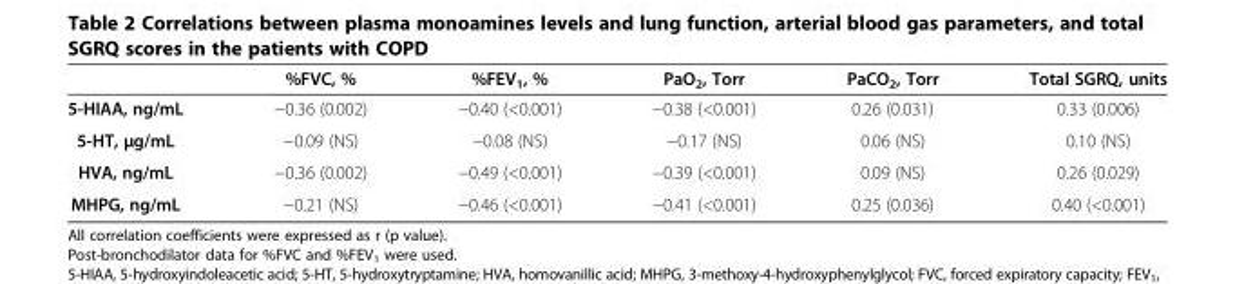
<table><thead><tr><td></td><td>%FVC, %</td><td>%FEV<sub>1</sub>, %</td><td>PaO<sub>2</sub>, Torr</td><td>PaCO<sub>2</sub>, Torr</td><td>Total SGRQ, units</td></tr></thead><tbody><tr><td>5-HIAA, ng/mL</td><td>−0.36 (0.002)</td><td>−0.40 (&lt;0.001)</td><td>−0.38 (&lt;0.001)</td><td>0.26 (0.031)</td><td>0.33 (0.006)</td></tr><tr><td>5-HT, μg/mL</td><td>−0.09 (NS)</td><td>−0.08 (NS)</td><td>−0.17 (NS)</td><td>0.06 (NS)</td><td>0.10 (NS)</td></tr><tr><td>HVA, ng/mL</td><td>−0.36 (0.002)</td><td>−0.49 (&lt;0.001)</td><td>−0.39 (&lt;0.001)</td><td>0.09 (NS)</td><td>0.26 (0.029)</td></tr><tr><td>MHPG, ng/mL</td><td>−0.21 (NS)</td><td>−0.46 (&lt;0.001)</td><td>−0.41 (&lt;0.001)</td><td>0.25 (0.036)</td><td>0.40 (&lt;0.001)</td></tr></tbody></table>